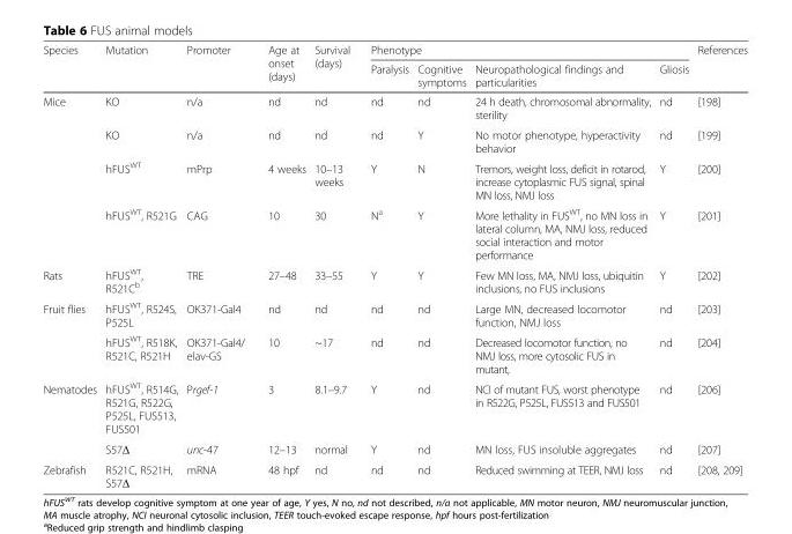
<table><thead><tr><td rowspan="2">Species</td><td rowspan="2">Mutation</td><td rowspan="2">Promoter</td><td rowspan="2">Age at onset (days)</td><td rowspan="2">Survival (days)</td><td colspan="4">Phenotype</td><td rowspan="2">References</td></tr><tr><td>Paralysis</td><td>Cognitive symptoms</td><td>Neuropathological findings and particularities</td><td>Gliosis</td></tr></thead><tbody><tr><td rowspan="4">Mice</td><td>KO</td><td>n/a</td><td>nd</td><td>nd</td><td>nd</td><td>nd</td><td>24 h death, chromosomal abnormality, sterility</td><td>nd</td><td>[198]</td></tr><tr><td>KO</td><td>n/a</td><td>nd</td><td>nd</td><td>nd</td><td>Y</td><td>No motor phenotype, hyperactivity behavior</td><td>nd</td><td>[199]</td></tr><tr><td>hFUS<sup>WT</sup></td><td>mPrp</td><td>4 weeks</td><td>10–13 weeks</td><td>Y</td><td>N</td><td>Tremors, weight loss, deficit in rotarod, increase cytoplasmic FUS signal, spinal MN loss, NMJ loss</td><td>Y</td><td>[200]</td></tr><tr><td>hFUS<sup>WT</sup>, R521G</td><td>CAG</td><td>10</td><td>30</td><td>N<sup>a</sup></td><td>Y</td><td>More lethality in FUS<sup>WT</sup>, no MN loss in lateral column, MA, NMJ loss, reduced social interaction and motor performance</td><td>Y</td><td>[201]</td></tr><tr><td>Rats</td><td>hFUS<sup>WT</sup>, R521C<sup>b</sup></td><td>TRE</td><td>27–48</td><td>33–55</td><td>Y</td><td>Y</td><td>Few MN loss, MA, NMJ loss, ubiquitin inclusions, no FUS inclusions</td><td>Y</td><td>[202]</td></tr><tr><td rowspan="2">Fruit flies</td><td>hFUS<sup>WT</sup>, R524S, P525L</td><td>OK371-Gal4</td><td>nd</td><td>nd</td><td>nd</td><td>nd</td><td>Large MN, decreased locomotor function, NMJ loss</td><td>nd</td><td>[203]</td></tr><tr><td>hFUS<sup>WT</sup>, R518K, R521C, R521H</td><td>OK371-Gal4/ elav-GS</td><td>10</td><td>~17</td><td>nd</td><td>nd</td><td>Decreased locomotor function, no NMJ loss, more cytosolic FUS in mutant,</td><td>nd</td><td>[204]</td></tr><tr><td rowspan="2">Nematodes</td><td>hFUS<sup>WT</sup>, R514G, R521G, R522G, P525L, FUS513, FUS501</td><td>Prgef-1</td><td>3</td><td>8.1–9.7</td><td>Y</td><td>nd</td><td>NCI of mutant FUS, worst phenotype in R522G, P525L, FUS513 and FUS501</td><td>nd</td><td>[206]</td></tr><tr><td>S57Δ</td><td>unc-47</td><td>12–13</td><td>normal</td><td>Y</td><td>nd</td><td>MN loss, FUS insoluble aggregates</td><td>nd</td><td>[207]</td></tr><tr><td>Zebrafish</td><td>R521C, R521H, S57Δ</td><td>mRNA</td><td>48 hpf</td><td>nd</td><td>nd</td><td>nd</td><td>Reduced swimming at TEER, NMJ loss</td><td>nd</td><td>[208, 209]</td></tr></tbody></table>